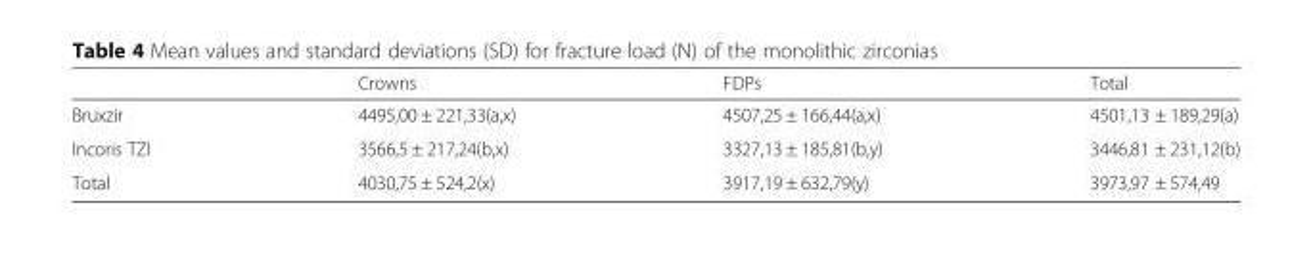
<table><thead><tr><td></td><td>Crowns</td><td>FDPs</td><td>Total</td></tr></thead><tbody><tr><td>Bruxzir</td><td>4495,00 ± 221,33(a,x)</td><td>4507,25 ± 166,44(a,x)</td><td>4501,13 ± 189,29(a)</td></tr><tr><td>Incoris TZI</td><td>3566,5 ± 217,24(b,x)</td><td>3327,13 ± 185,81(b,y)</td><td>3446,81 ± 231,12(b)</td></tr><tr><td>Total</td><td>4030,75 ± 524,2(x)</td><td>3917,19 ± 632,79(y)</td><td>3973,97 ± 574,49</td></tr></tbody></table>